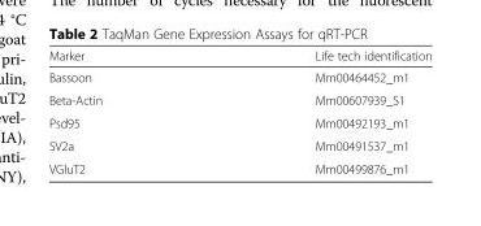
<table><thead><tr><td>Marker</td><td>Life tech identification</td></tr></thead><tbody><tr><td>Bassoon</td><td>Mm00464452_m1</td></tr><tr><td>Beta-Actin</td><td>Mm00607939_S1</td></tr><tr><td>Psd95</td><td>Mm00492193_m1</td></tr><tr><td>SV2a</td><td>Mm00491537_m1</td></tr><tr><td>VGluT2</td><td>Mm00499876_m1</td></tr></tbody></table>